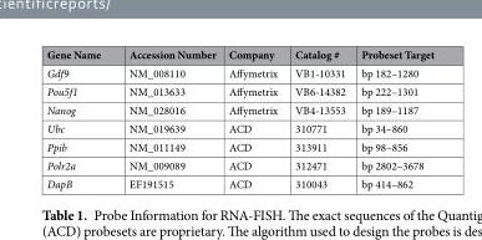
<table><thead><tr><td>Gene Name</td><td>Accession Number</td><td>Company</td><td>Catalog #</td><td>Probeset Target</td></tr></thead><tbody><tr><td>Gdf9</td><td>NM_008110</td><td>Affymetrix</td><td>VB1-10331</td><td>bp 182–1280</td></tr><tr><td>Pou5f1</td><td>NM_013633</td><td>Affymetrix</td><td>VB6-14382</td><td>bp 222–1301</td></tr><tr><td>Nanog</td><td>NM_028016</td><td>Affymetrix</td><td>VB4-13553</td><td>bp 189–1187</td></tr><tr><td>Ubc</td><td>NM_019639</td><td>ACD</td><td>310771</td><td>bp 34–860</td></tr><tr><td>Ppib</td><td>NM_011149</td><td>ACD</td><td>313911</td><td>bp 98–856</td></tr><tr><td>Polr2a</td><td>NM_009089</td><td>ACD</td><td>312471</td><td>bp 2802–3678</td></tr><tr><td>DapB</td><td>EF191515</td><td>ACD</td><td>310043</td><td>bp 414–862</td></tr></tbody></table>